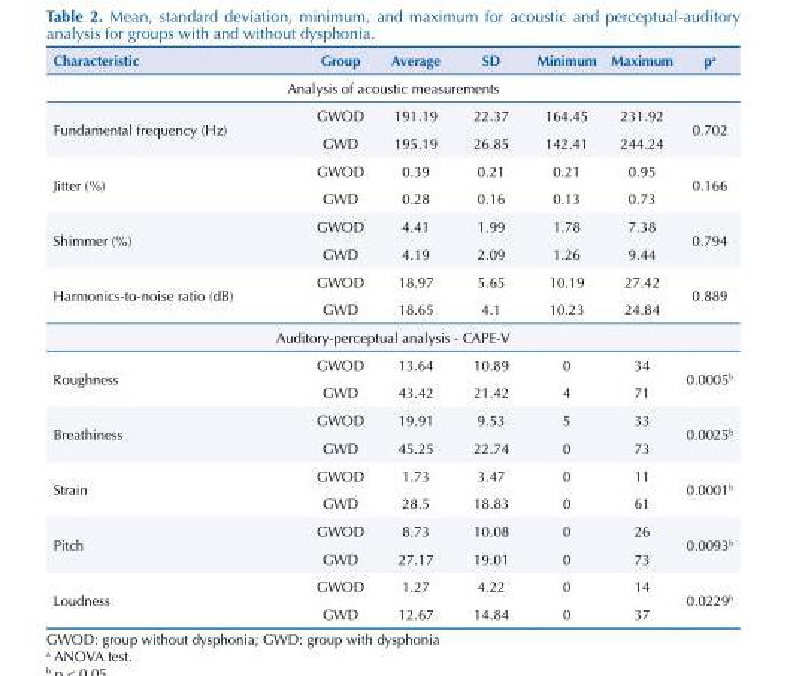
<table><thead><tr><td>Characteristic</td><td>Group</td><td>Average</td><td>SD</td><td>Minimum</td><td>Maximum</td><td>p<sup>a</sup></td></tr></thead><tbody><tr><td colspan="7">Analysis of acoustic measurements</td></tr><tr><td rowspan="2">Fundamental frequency (Hz)</td><td>GWOD</td><td>191.19</td><td>22.37</td><td>164.45</td><td>231.92</td><td rowspan="2">0.702</td></tr><tr><td>GWD</td><td>195.19</td><td>26.85</td><td>142.41</td><td>244.24</td></tr><tr><td rowspan="2">Jitter (%)</td><td>GWOD</td><td>0.39</td><td>0.21</td><td>0.21</td><td>0.95</td><td rowspan="2">0.166</td></tr><tr><td>GWD</td><td>0.28</td><td>0.16</td><td>0.13</td><td>0.73</td></tr><tr><td rowspan="2">Shimmer (%)</td><td>GWOD</td><td>4.41</td><td>1.99</td><td>1.78</td><td>7.38</td><td rowspan="2">0.794</td></tr><tr><td>GWD</td><td>4.19</td><td>2.09</td><td>1.26</td><td>9.44</td></tr><tr><td rowspan="2">Harmonics-to-noise ratio (dB)</td><td>GWOD</td><td>18.97</td><td>5.65</td><td>10.19</td><td>27.42</td><td rowspan="2">0.889</td></tr><tr><td>GWD</td><td>18.65</td><td>4.1</td><td>10.23</td><td>24.84</td></tr><tr><td colspan="7">Auditory-perceptual analysis - CAPE-V</td></tr><tr><td rowspan="2">Roughness</td><td>GWOD</td><td>13.64</td><td>10.89</td><td>0</td><td>34</td><td rowspan="2">0.0005<sup>b</sup></td></tr><tr><td>GWD</td><td>43.42</td><td>21.42</td><td>4</td><td>71</td></tr><tr><td rowspan="2">Breathiness</td><td>GWOD</td><td>19.91</td><td>9.53</td><td>5</td><td>33</td><td rowspan="2">0.0025<sup>b</sup></td></tr><tr><td>GWD</td><td>45.25</td><td>22.74</td><td>0</td><td>73</td></tr><tr><td rowspan="2">Strain</td><td>GWOD</td><td>1.73</td><td>3.47</td><td>0</td><td>11</td><td rowspan="2">0.0001<sup>b</sup></td></tr><tr><td>GWD</td><td>28.5</td><td>18.83</td><td>0</td><td>61</td></tr><tr><td rowspan="2">Pitch</td><td>GWOD</td><td>8.73</td><td>10.08</td><td>0</td><td>26</td><td rowspan="2">0.0093<sup>b</sup></td></tr><tr><td>GWD</td><td>27.17</td><td>19.01</td><td>0</td><td>73</td></tr><tr><td rowspan="2">Loudness</td><td>GWOD</td><td>1.27</td><td>4.22</td><td>0</td><td>14</td><td rowspan="2">0.0229<sup>b</sup></td></tr><tr><td>GWD</td><td>12.67</td><td>14.84</td><td>0</td><td>37</td></tr></tbody></table>